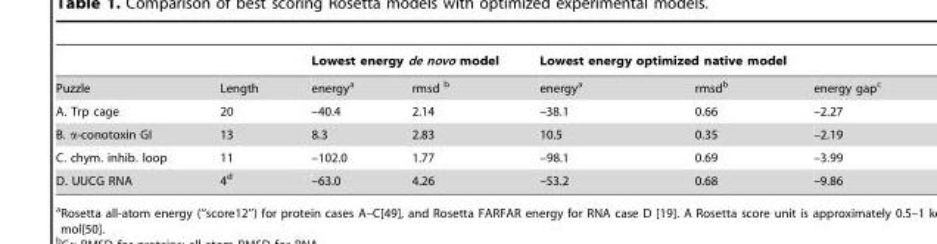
<table><thead><tr><td rowspan="2">Puzzle</td><td rowspan="2">Length</td><td colspan="2">Lowest energy de novo model</td><td colspan="2">Lowest energy optimized native model</td><td rowspan="2">energy gap<sup>c</sup></td></tr><tr><td>energy<sup>a</sup></td><td>rmsd b</td><td>energy<sup>a</sup></td><td>rmsdb</td></tr></thead><tbody><tr><td>A. Trp cage</td><td>20</td><td>–40.4</td><td>2.14</td><td>–38.1</td><td>0.66</td><td>–2.27</td></tr><tr><td>B. α-conotoxin GI</td><td>13</td><td>8.3</td><td>2.83</td><td>10.5</td><td>0.35</td><td>–2.19</td></tr><tr><td>C. chym. inhib. loop</td><td>11</td><td>–102.0</td><td>1.77</td><td>–98.1</td><td>0.69</td><td>–3.99</td></tr><tr><td>D. UUCG RNA</td><td>4<sup>d</sup></td><td>–63.0</td><td>4.26</td><td>–53.2</td><td>0.68</td><td>–9.86</td></tr></tbody></table>